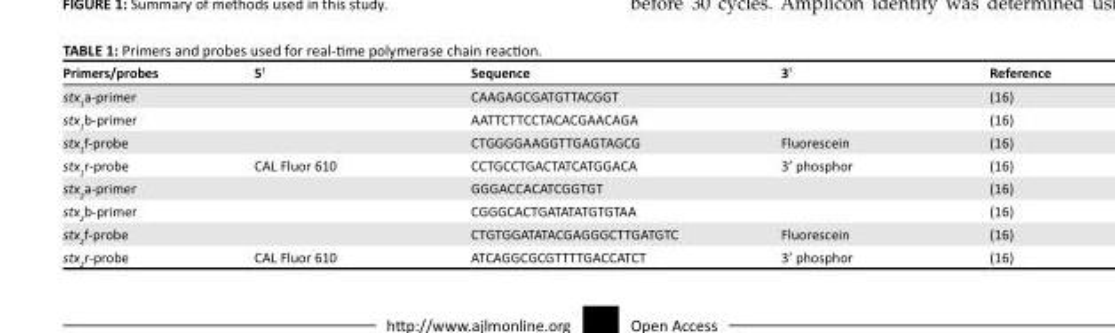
<table><thead><tr><td>Primers/probes</td><td>5<sup>!</sup></td><td>Sequence</td><td>3<sup>!</sup></td><td>Reference</td></tr></thead><tbody><tr><td>stx<sub>1</sub>a-primer</td><td></td><td>CAAGAGCGATGTTACGGT</td><td></td><td>(16)</td></tr><tr><td>stx<sub>1</sub>b-primer</td><td></td><td>AATTCTTCCTACACGAACAGA</td><td></td><td>(16)</td></tr><tr><td>stx<sub>1</sub>f-probe</td><td></td><td>CTGGGGAAGGTTGAGTAGCG</td><td>Fluorescein</td><td>(16)</td></tr><tr><td>stx<sub>1</sub>r-probe</td><td>CAL Fluor 610</td><td>CCTGCCTGACTATCATGGACA</td><td>3’ phosphor</td><td>(16)</td></tr><tr><td>stx<sub>2</sub>a-primer</td><td></td><td>GGGACCACATCGGTGT</td><td></td><td>(16)</td></tr><tr><td>stx<sub>2</sub>b-primer</td><td></td><td>CGGGCACTGATATATGTGTAA</td><td></td><td>(16)</td></tr><tr><td>stx<sub>2</sub>f-probe</td><td></td><td>CTGTGGATATACGAGGGCTTGATGTC</td><td>Fluorescein</td><td>(16)</td></tr><tr><td>stx<sub>2</sub>r-probe</td><td>CAL Fluor 610</td><td>ATCAGGCGCGTTTTGACCATCT</td><td>3’ phosphor</td><td>(16)</td></tr></tbody></table>